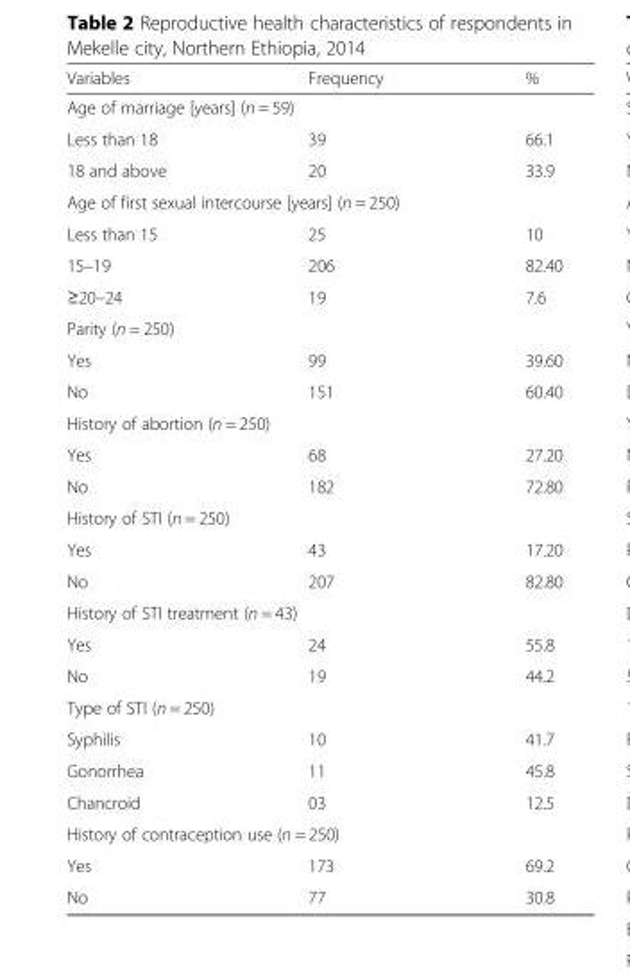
<table><thead><tr><td>Variables</td><td>Frequency</td><td>%</td></tr></thead><tbody><tr><td colspan="3">Age of marriage [years] (n = 59)</td></tr><tr><td>Less than 18</td><td>39</td><td>66.1</td></tr><tr><td>18 and above</td><td>20</td><td>33.9</td></tr><tr><td colspan="3">Age of first sexual intercourse [years] (n = 250)</td></tr><tr><td>Less than 15</td><td>25</td><td>10</td></tr><tr><td>15–19</td><td>206</td><td>82.40</td></tr><tr><td>≥20–24</td><td>19</td><td>7.6</td></tr><tr><td colspan="3">Parity (n = 250)</td></tr><tr><td>Yes</td><td>99</td><td>39.60</td></tr><tr><td>No</td><td>151</td><td>60.40</td></tr><tr><td colspan="3">History of abortion (n = 250)</td></tr><tr><td>Yes</td><td>68</td><td>27.20</td></tr><tr><td>No</td><td>182</td><td>72.80</td></tr><tr><td colspan="3">History of STI (n = 250)</td></tr><tr><td>Yes</td><td>43</td><td>17.20</td></tr><tr><td>No</td><td>207</td><td>82.80</td></tr><tr><td colspan="3">History of STI treatment (n = 43)</td></tr><tr><td>Yes</td><td>24</td><td>55.8</td></tr><tr><td>No</td><td>19</td><td>44.2</td></tr><tr><td colspan="3">Type of STI (n = 250)</td></tr><tr><td>Syphilis</td><td>10</td><td>41.7</td></tr><tr><td>Gonorrhea</td><td>11</td><td>45.8</td></tr><tr><td>Chancroid</td><td>03</td><td>12.5</td></tr><tr><td colspan="3">History of contraception use (n = 250)</td></tr><tr><td>Yes</td><td>173</td><td>69.2</td></tr><tr><td>No</td><td>77</td><td>30.8</td></tr></tbody></table>